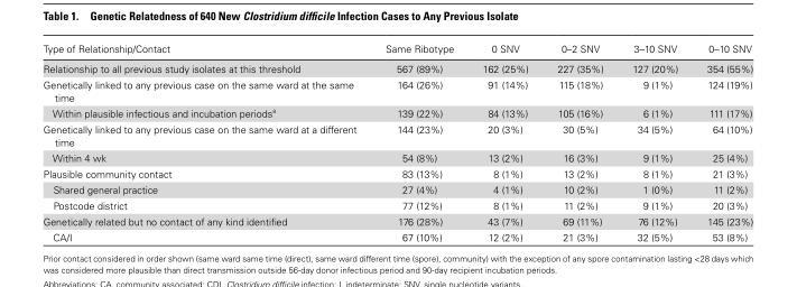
<table><thead><tr><td>Type of Relationship/Contact</td><td>Same Ribotype</td><td>0 SNV</td><td>0–2 SNV</td><td>3–10 SNV</td><td>0–10 SNV</td></tr></thead><tbody><tr><td>Relationship to all previous study isolates at this threshold</td><td>567 (89%)</td><td>162 (25%)</td><td>227 (35%)</td><td>127 (20%)</td><td>354 (55%)</td></tr><tr><td>Genetically linked to any previous case on the same ward at the same time</td><td>164 (26%)</td><td>91 (14%)</td><td>115 (18%)</td><td>9 (1%)</td><td>124 (19%)</td></tr><tr><td>Within plausible infectious and incubation periods<sup>a</sup></td><td>139 (22%)</td><td>84 (13%)</td><td>105 (16%)</td><td>6 (1%)</td><td>111 (17%)</td></tr><tr><td>Genetically linked to any previous case on the same ward at a different time</td><td>144 (23%)</td><td>20 (3%)</td><td>30 (5%)</td><td>34 (5%)</td><td>64 (10%)</td></tr><tr><td>Within 4 wk</td><td>54 (8%)</td><td>13 (2%)</td><td>16 (3%)</td><td>9 (1%)</td><td>25 (4%)</td></tr><tr><td>Plausible community contact</td><td>83 (13%)</td><td>8 (1%)</td><td>13 (2%)</td><td>8 (1%)</td><td>21 (3%)</td></tr><tr><td>Shared general practice</td><td>27 (4%)</td><td>4 (1%)</td><td>10 (2%)</td><td>1 (0%)</td><td>11 (2%)</td></tr><tr><td>Postcode district</td><td>77 (12%)</td><td>8 (1%)</td><td>11 (2%)</td><td>9 (1%)</td><td>20 (3%)</td></tr><tr><td>Genetically related but no contact of any kind identified</td><td>176 (28%)</td><td>43 (7%)</td><td>69 (11%)</td><td>76 (12%)</td><td>145 (23%)</td></tr><tr><td>CA/I</td><td>67 (10%)</td><td>12 (2%)</td><td>21 (3%)</td><td>32 (5%)</td><td>53 (8%)</td></tr></tbody></table>